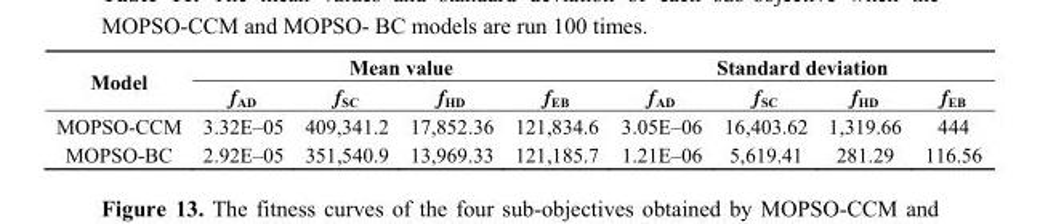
<table><thead><tr><td rowspan="2">Model</td><td colspan="4">Mean value</td><td colspan="4">Standard deviation</td></tr><tr><td>f<sub>AD</sub></td><td>f<sub>SC</sub></td><td>f<sub>HD</sub></td><td>f<sub>EB</sub></td><td>f<sub>AD</sub></td><td>f<sub>SC</sub></td><td>f<sub>HD</sub></td><td>f<sub>EB</sub></td></tr></thead><tbody><tr><td>MOPSO-CCM</td><td>3.32E–05</td><td>409,341.2</td><td>17,852.36</td><td>121,834.6</td><td>3.05E–06</td><td>16,403.62</td><td>1,319.66</td><td>444</td></tr><tr><td>MOPSO-BC</td><td>2.92E–05</td><td>351,540.9</td><td>13,969.33</td><td>121,185.7</td><td>1.21E–06</td><td>5,619.41</td><td>281.29</td><td>116.56</td></tr></tbody></table>